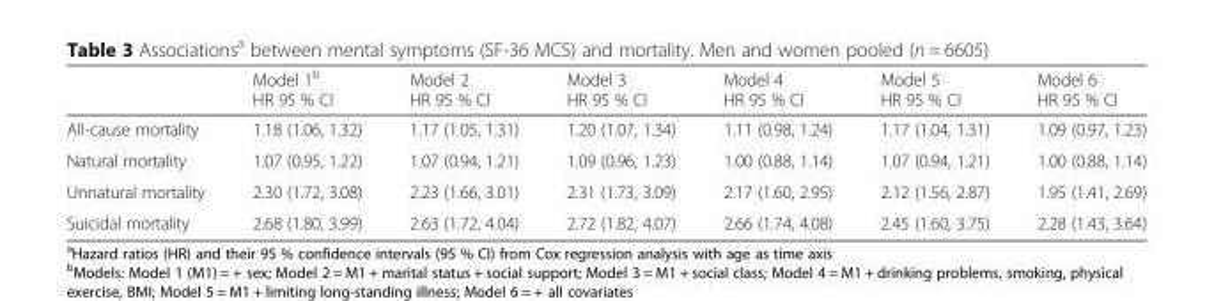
<table><thead><tr><td></td><td>Model 1<sup>b</sup> HR 95 % CI</td><td>Model 2 HR 95 % CI</td><td>Model 3 HR 95 % CI</td><td>Model 4 HR 95 % CI</td><td>Model 5 HR 95 % CI</td><td>Model 6 HR 95 % CI</td></tr></thead><tbody><tr><td>All-cause mortality</td><td>1.18 (1.06, 1.32)</td><td>1.17 (1.05, 1.31)</td><td>1.20 (1.07, 1.34)</td><td>1.11 (0.98, 1.24)</td><td>1.17 (1.04, 1.31)</td><td>1.09 (0.97, 1.23)</td></tr><tr><td>Natural mortality</td><td>1.07 (0.95, 1.22)</td><td>1.07 (0.94, 1.21)</td><td>1.09 (0.96, 1.23)</td><td>1.00 (0.88, 1.14)</td><td>1.07 (0.94, 1.21)</td><td>1.00 (0.88, 1.14)</td></tr><tr><td>Unnatural mortality</td><td>2.30 (1.72, 3.08)</td><td>2.23 (1.66, 3.01)</td><td>2.31 (1.73, 3.09)</td><td>2.17 (1.60, 2.95)</td><td>2.12 (1.56, 2.87)</td><td>1.95 (1.41, 2.69)</td></tr><tr><td>Suicidal mortality</td><td>2.68 (1.80, 3.99)</td><td>2.63 (1.72, 4.04)</td><td>2.72 (1.82, 4.07)</td><td>2.66 (1.74, 4.08)</td><td>2.45 (1.60, 3.75)</td><td>2.28 (1.43, 3.64)</td></tr></tbody></table>